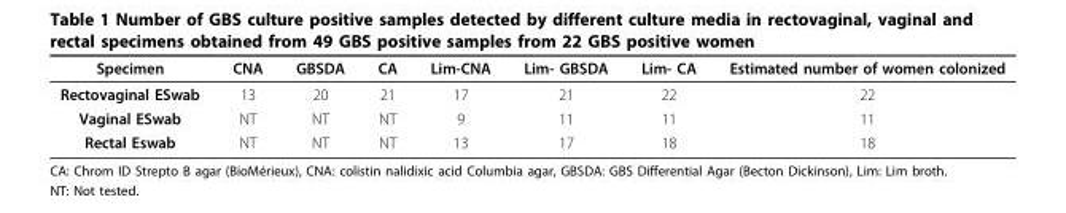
<table><thead><tr><td>Specimen</td><td>CNA</td><td>GBSDA</td><td>CA</td><td>Lim-CNA</td><td>Lim- GBSDA</td><td>Lim- CA</td><td>Estimated number of women colonized</td></tr></thead><tbody><tr><td>Rectovaginal ESwab</td><td>13</td><td>20</td><td>21</td><td>17</td><td>21</td><td>22</td><td>22</td></tr><tr><td>Vaginal ESwab</td><td>NT</td><td>NT</td><td>NT</td><td>9</td><td>11</td><td>11</td><td>11</td></tr><tr><td>Rectal Eswab</td><td>NT</td><td>NT</td><td>NT</td><td>13</td><td>17</td><td>18</td><td>18</td></tr></tbody></table>